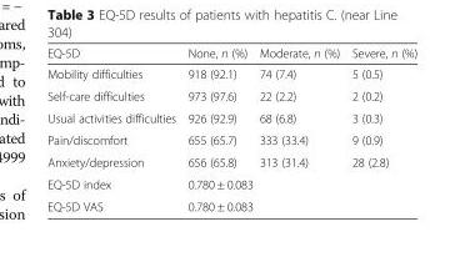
<table><thead><tr><td>EQ-5D</td><td>None, n (%)</td><td>Moderate, n (%)</td><td>Severe, n (%)</td></tr></thead><tbody><tr><td>Mobility difficulties</td><td>918 (92.1)</td><td>74 (7.4)</td><td>5 (0.5)</td></tr><tr><td>Self-care difficulties</td><td>973 (97.6)</td><td>22 (2.2)</td><td>2 (0.2)</td></tr><tr><td>Usual activities difficulties</td><td>926 (92.9)</td><td>68 (6.8)</td><td>3 (0.3)</td></tr><tr><td>Pain/discomfort</td><td>655 (65.7)</td><td>333 (33.4)</td><td>9 (0.9)</td></tr><tr><td>Anxiety/depression</td><td>656 (65.8)</td><td>313 (31.4)</td><td>28 (2.8)</td></tr><tr><td>EQ-5D index</td><td colspan="3">0.780 ± 0.083</td></tr><tr><td>EQ-5D VAS</td><td colspan="3">0.780 ± 0.083</td></tr></tbody></table>